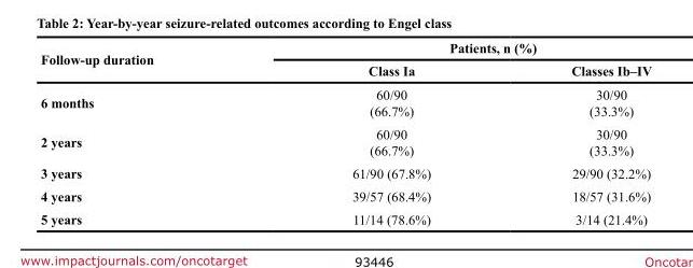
<table><thead><tr><td rowspan="2">Follow-up duration</td><td colspan="2">Patients, n (%)</td></tr><tr><td>Class Ia</td><td>Classes Ib–IV</td></tr></thead><tbody><tr><td>6 months</td><td>60/90 (66.7%)</td><td>30/90 (33.3%)</td></tr><tr><td>2 years</td><td>60/90 (66.7%)</td><td>30/90 (33.3%)</td></tr><tr><td>3 years</td><td>61/90 (67.8%)</td><td>29/90 (32.2%)</td></tr><tr><td>4 years</td><td>39/57 (68.4%)</td><td>18/57 (31.6%)</td></tr><tr><td>5 years</td><td>11/14 (78.6%)</td><td>3/14 (21.4%)</td></tr></tbody></table>